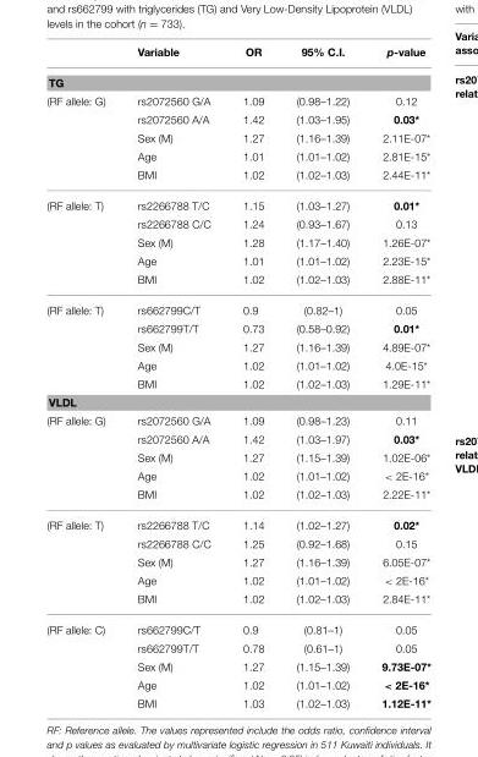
<table><thead><tr><td></td><td>Variable</td><td>OR</td><td>95% C.I.</td><td>p-value</td></tr></thead><tbody><tr><td colspan="5">TG</td></tr><tr><td rowspan="5">(RF allele: G)</td><td>rs2072560 G/A</td><td>1.09</td><td>(0.98–1.22)</td><td>0.12</td></tr><tr><td>rs2072560 A/A</td><td>1.42</td><td>(1.03–1.95)</td><td>0.03*</td></tr><tr><td>Sex (M)</td><td>1.27</td><td>(1.16–1.39)</td><td>2.11E-07*</td></tr><tr><td>Age</td><td>1.01</td><td>(1.01–1.02)</td><td>2.81E-15*</td></tr><tr><td>BMI</td><td>1.02</td><td>(1.02–1.03)</td><td>2.44E-11*</td></tr><tr><td rowspan="5">(RF allele: T)</td><td>rs2266788 T/C</td><td>1.15</td><td>(1.03–1.27)</td><td>0.01*</td></tr><tr><td>rs2266788 C/C</td><td>1.24</td><td>(0.93–1.67)</td><td>0.13</td></tr><tr><td>Sex (M)</td><td>1.28</td><td>(1.17–1.40)</td><td>1.26E-07*</td></tr><tr><td>Age</td><td>1.01</td><td>(1.01–1.02)</td><td>2.23E-15*</td></tr><tr><td>BMI</td><td>1.02</td><td>(1.02–1.03)</td><td>2.88E-11*</td></tr><tr><td rowspan="5">(RF allele: T)</td><td>rs662799C/T</td><td>0.9</td><td>(0.82–1)</td><td>0.05</td></tr><tr><td>rs662799T/T</td><td>0.73</td><td>(0.58–0.92)</td><td>0.01*</td></tr><tr><td>Sex (M)</td><td>1.27</td><td>(1.16–1.39)</td><td>4.89E-07*</td></tr><tr><td>Age</td><td>1.02</td><td>(1.01–1.02)</td><td>4.0E-15*</td></tr><tr><td>BMI</td><td>1.02</td><td>(1.02–1.03)</td><td>1.29E-11*</td></tr><tr><td colspan="5">VLDL</td></tr><tr><td rowspan="5">(RF allele: G)</td><td>rs2072560 G/A</td><td>1.09</td><td>(0.98–1.23)</td><td>0.11</td></tr><tr><td>rs2072560 A/A</td><td>1.42</td><td>(1.03–1.97)</td><td>0.03*</td></tr><tr><td>Sex (M)</td><td>1.27</td><td>(1.15–1.39)</td><td>1.02E-06*</td></tr><tr><td>Age</td><td>1.02</td><td>(1.01–1.02)</td><td>&lt; 2E-16*</td></tr><tr><td>BMI</td><td>1.02</td><td>(1.02–1.03)</td><td>2.22E-11*</td></tr><tr><td rowspan="5">(RF allele: T)</td><td>rs2266788 T/C</td><td>1.14</td><td>(1.02–1.27)</td><td>0.02*</td></tr><tr><td>rs2266788 C/C</td><td>1.25</td><td>(0.92–1.68)</td><td>0.15</td></tr><tr><td>Sex (M)</td><td>1.27</td><td>(1.16–1.39)</td><td>6.05E-07*</td></tr><tr><td>Age</td><td>1.02</td><td>(1.01–1.02)</td><td>&lt; 2E-16*</td></tr><tr><td>BMI</td><td>1.02</td><td>(1.02–1.03)</td><td>2.84E-11*</td></tr><tr><td rowspan="5">(RF allele: C)</td><td>rs662799C/T</td><td>0.9</td><td>(0.81–1)</td><td>0.05</td></tr><tr><td>rs662799T/T</td><td>0.78</td><td>(0.61–1)</td><td>0.05</td></tr><tr><td>Sex (M)</td><td>1.27</td><td>(1.15–1.39)</td><td>9.73E-07*</td></tr><tr><td>Age</td><td>1.02</td><td>(1.01–1.02)</td><td>&lt; 2E-16*</td></tr><tr><td>BMI</td><td>1.03</td><td>(1.02–1.03)</td><td>1.12E-11*</td></tr></tbody></table>